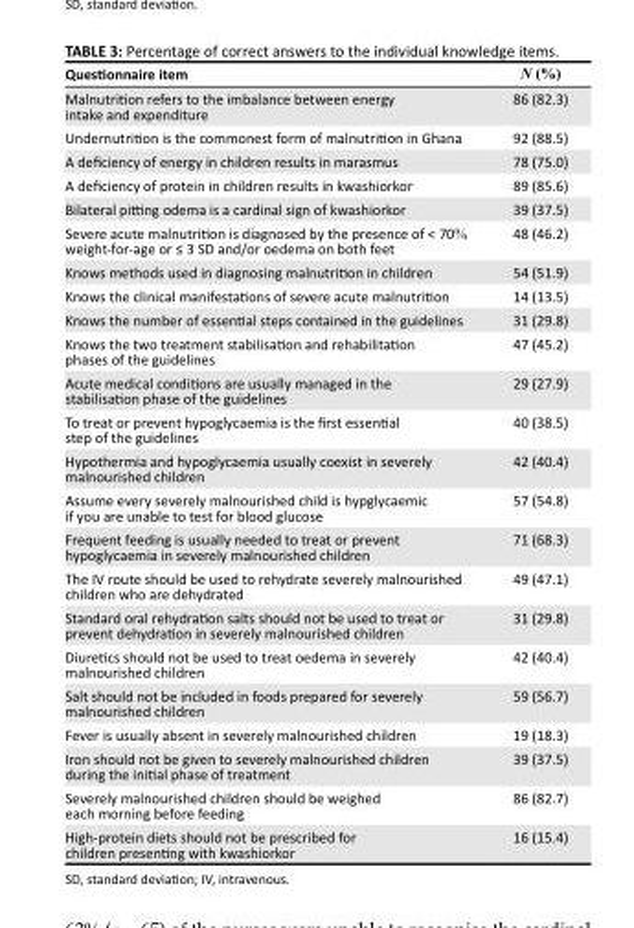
<table><thead><tr><td>Questionnaire item</td><td>N (%)</td></tr></thead><tbody><tr><td>Malnutrition refers to the imbalance between energy intake and expenditure</td><td>86 (82.3)</td></tr><tr><td>Undernutrition is the commonest form of malnutrition in Ghana</td><td>92 (88.5)</td></tr><tr><td>A deficiency of energy in children results in marasmus</td><td>78 (75.0)</td></tr><tr><td>A deficiency of protein in children results in kwashiorkor</td><td>89 (85.6)</td></tr><tr><td>Bilateral pitting odema is a cardinal sign of kwashiorkor</td><td>39 (37.5)</td></tr><tr><td>Severe acute malnutrition is diagnosed by the presence of &lt; 70% weight-for-age or ≤ 3 SD and/or oedema on both feet</td><td>48 (46.2)</td></tr><tr><td>Knows methods used in diagnosing malnutrition in children</td><td>54 (51.9)</td></tr><tr><td>Knows the clinical manifestations of severe acute malnutrition</td><td>14 (13.5)</td></tr><tr><td>Knows the number of essential steps contained in the guidelines</td><td>31 (29.8)</td></tr><tr><td>Knows the two treatment stabilisation and rehabilitation phases of the guidelines</td><td>47 (45.2)</td></tr><tr><td>Acute medical conditions are usually managed in the stabilisation phase of the guidelines</td><td>29 (27.9)</td></tr><tr><td>To treat or prevent hypoglycaemia is the first essential step of the guidelines</td><td>40 (38.5)</td></tr><tr><td>Hypothermia and hypoglycaemia usually coexist in severely malnourished children</td><td>42 (40.4)</td></tr><tr><td>Assume every severely malnourished child is hypglycaemic if you are unable to test for blood glucose</td><td>57 (54.8)</td></tr><tr><td>Frequent feeding is usually needed to treat or prevent hypoglycaemia in severely malnourished children</td><td>71 (68.3)</td></tr><tr><td>The IV route should be used to rehydrate severely malnourished children who are dehydrated</td><td>49 (47.1)</td></tr><tr><td>Standard oral rehydration salts should not be used to treat or prevent dehydration in severely malnourished children</td><td>31 (29.8)</td></tr><tr><td>Diuretics should not be used to treat oedema in severely malnourished children</td><td>42 (40.4)</td></tr><tr><td>Salt should not be included in foods prepared for severely malnourished children</td><td>59 (56.7)</td></tr><tr><td>Fever is usually absent in severely malnourished children</td><td>19 (18.3)</td></tr><tr><td>Iron should not be given to severely malnourished children during the initial phase of treatment</td><td>39 (37.5)</td></tr><tr><td>Severely malnourished children should be weighed each morning before feeding</td><td>86 (82.7)</td></tr><tr><td>High-protein diets should not be prescribed for children presenting with kwashiorkor</td><td>16 (15.4)</td></tr></tbody></table>